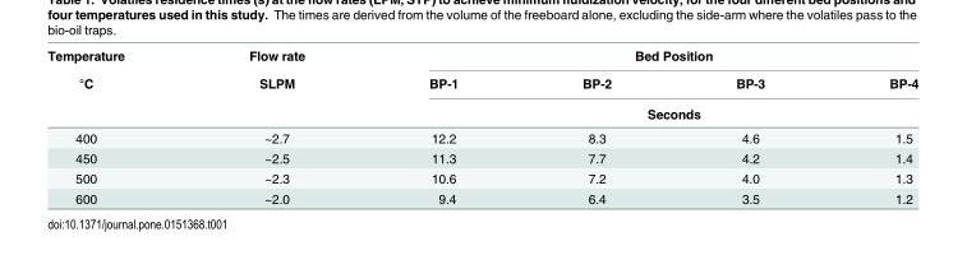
<table><thead><tr><td rowspan="3">Temperature °C</td><td rowspan="3">Flow rate SLPM</td><td colspan="4">Bed Position</td></tr><tr><td>BP-1</td><td>BP-2</td><td>BP-3</td><td>BP-4</td></tr><tr><td colspan="4">Seconds</td></tr></thead><tbody><tr><td>400</td><td>~2.7</td><td>12.2</td><td>8.3</td><td>4.6</td><td>1.5</td></tr><tr><td>450</td><td>~2.5</td><td>11.3</td><td>7.7</td><td>4.2</td><td>1.4</td></tr><tr><td>500</td><td>~2.3</td><td>10.6</td><td>7.2</td><td>4.0</td><td>1.3</td></tr><tr><td>600</td><td>~2.0</td><td>9.4</td><td>6.4</td><td>3.5</td><td>1.2</td></tr></tbody></table>